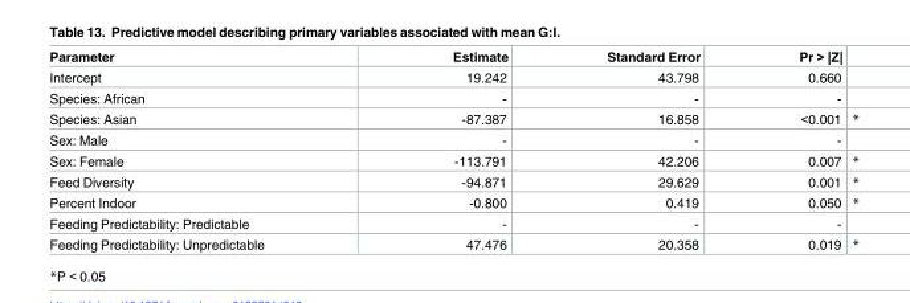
<table><thead><tr><td>Parameter</td><td>Estimate</td><td>Standard Error</td><td>Pr &gt; |Z|</td><td></td></tr></thead><tbody><tr><td>Intercept</td><td>19.242</td><td>43.798</td><td>0.660</td><td></td></tr><tr><td>Species: African</td><td>-</td><td>-</td><td>-</td><td></td></tr><tr><td>Species: Asian</td><td>-87.387</td><td>16.858</td><td>&lt;0.001</td><td>*</td></tr><tr><td>Sex: Male</td><td>-</td><td>-</td><td>-</td><td></td></tr><tr><td>Sex: Female</td><td>-113.791</td><td>42.206</td><td>0.007</td><td>*</td></tr><tr><td>Feed Diversity</td><td>-94.871</td><td>29.629</td><td>0.001</td><td>*</td></tr><tr><td>Percent Indoor</td><td>-0.800</td><td>0.419</td><td>0.050</td><td>*</td></tr><tr><td>Feeding Predictability: Predictable</td><td>-</td><td>-</td><td>-</td><td></td></tr><tr><td>Feeding Predictability: Unpredictable</td><td>47.476</td><td>20.358</td><td>0.019</td><td>*</td></tr></tbody></table>